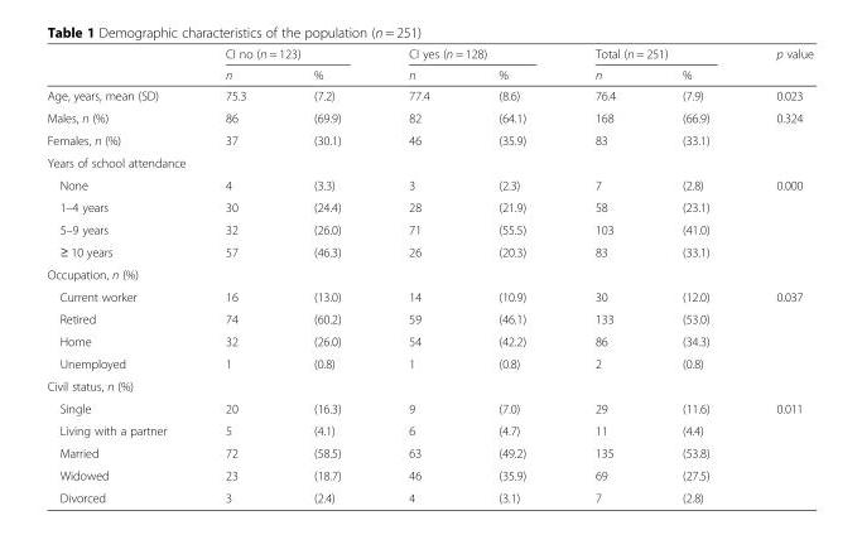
<table><thead><tr><td rowspan="2"></td><td colspan="2">CI no (n = 123)</td><td colspan="2">CI yes (n = 128)</td><td colspan="2">Total (n = 251)</td><td rowspan="2">p value</td></tr><tr><td>n</td><td>%</td><td>n</td><td>%</td><td>n</td><td>%</td></tr></thead><tbody><tr><td>Age, years, mean (SD)</td><td>75.3</td><td>(7.2)</td><td>77.4</td><td>(8.6)</td><td>76.4</td><td>(7.9)</td><td>0.023</td></tr><tr><td>Males, n (%)</td><td>86</td><td>(69.9)</td><td>82</td><td>(64.1)</td><td>168</td><td>(66.9)</td><td rowspan="2">0.324</td></tr><tr><td>Females, n (%)</td><td>37</td><td>(30.1)</td><td>46</td><td>(35.9)</td><td>83</td><td>(33.1)</td></tr><tr><td colspan="8">Years of school attendance</td></tr><tr><td>None</td><td>4</td><td>(3.3)</td><td>3</td><td>(2.3)</td><td>7</td><td>(2.8)</td><td rowspan="4">0.000</td></tr><tr><td>1–4 years</td><td>30</td><td>(24.4)</td><td>28</td><td>(21.9)</td><td>58</td><td>(23.1)</td></tr><tr><td>5–9 years</td><td>32</td><td>(26.0)</td><td>71</td><td>(55.5)</td><td>103</td><td>(41.0)</td></tr><tr><td>≥ 10 years</td><td>57</td><td>(46.3)</td><td>26</td><td>(20.3)</td><td>83</td><td>(33.1)</td></tr><tr><td colspan="8">Occupation, n (%)</td></tr><tr><td>Current worker</td><td>16</td><td>(13.0)</td><td>14</td><td>(10.9)</td><td>30</td><td>(12.0)</td><td rowspan="4">0.037</td></tr><tr><td>Retired</td><td>74</td><td>(60.2)</td><td>59</td><td>(46.1)</td><td>133</td><td>(53.0)</td></tr><tr><td>Home</td><td>32</td><td>(26.0)</td><td>54</td><td>(42.2)</td><td>86</td><td>(34.3)</td></tr><tr><td>Unemployed</td><td>1</td><td>(0.8)</td><td>1</td><td>(0.8)</td><td>2</td><td>(0.8)</td></tr><tr><td colspan="8">Civil status, n (%)</td></tr><tr><td>Single</td><td>20</td><td>(16.3)</td><td>9</td><td>(7.0)</td><td>29</td><td>(11.6)</td><td rowspan="5">0.011</td></tr><tr><td>Living with a partner</td><td>5</td><td>(4.1)</td><td>6</td><td>(4.7)</td><td>11</td><td>(4.4)</td></tr><tr><td>Married</td><td>72</td><td>(58.5)</td><td>63</td><td>(49.2)</td><td>135</td><td>(53.8)</td></tr><tr><td>Widowed</td><td>23</td><td>(18.7)</td><td>46</td><td>(35.9)</td><td>69</td><td>(27.5)</td></tr><tr><td>Divorced</td><td>3</td><td>(2.4)</td><td>4</td><td>(3.1)</td><td>7</td><td>(2.8)</td></tr></tbody></table>